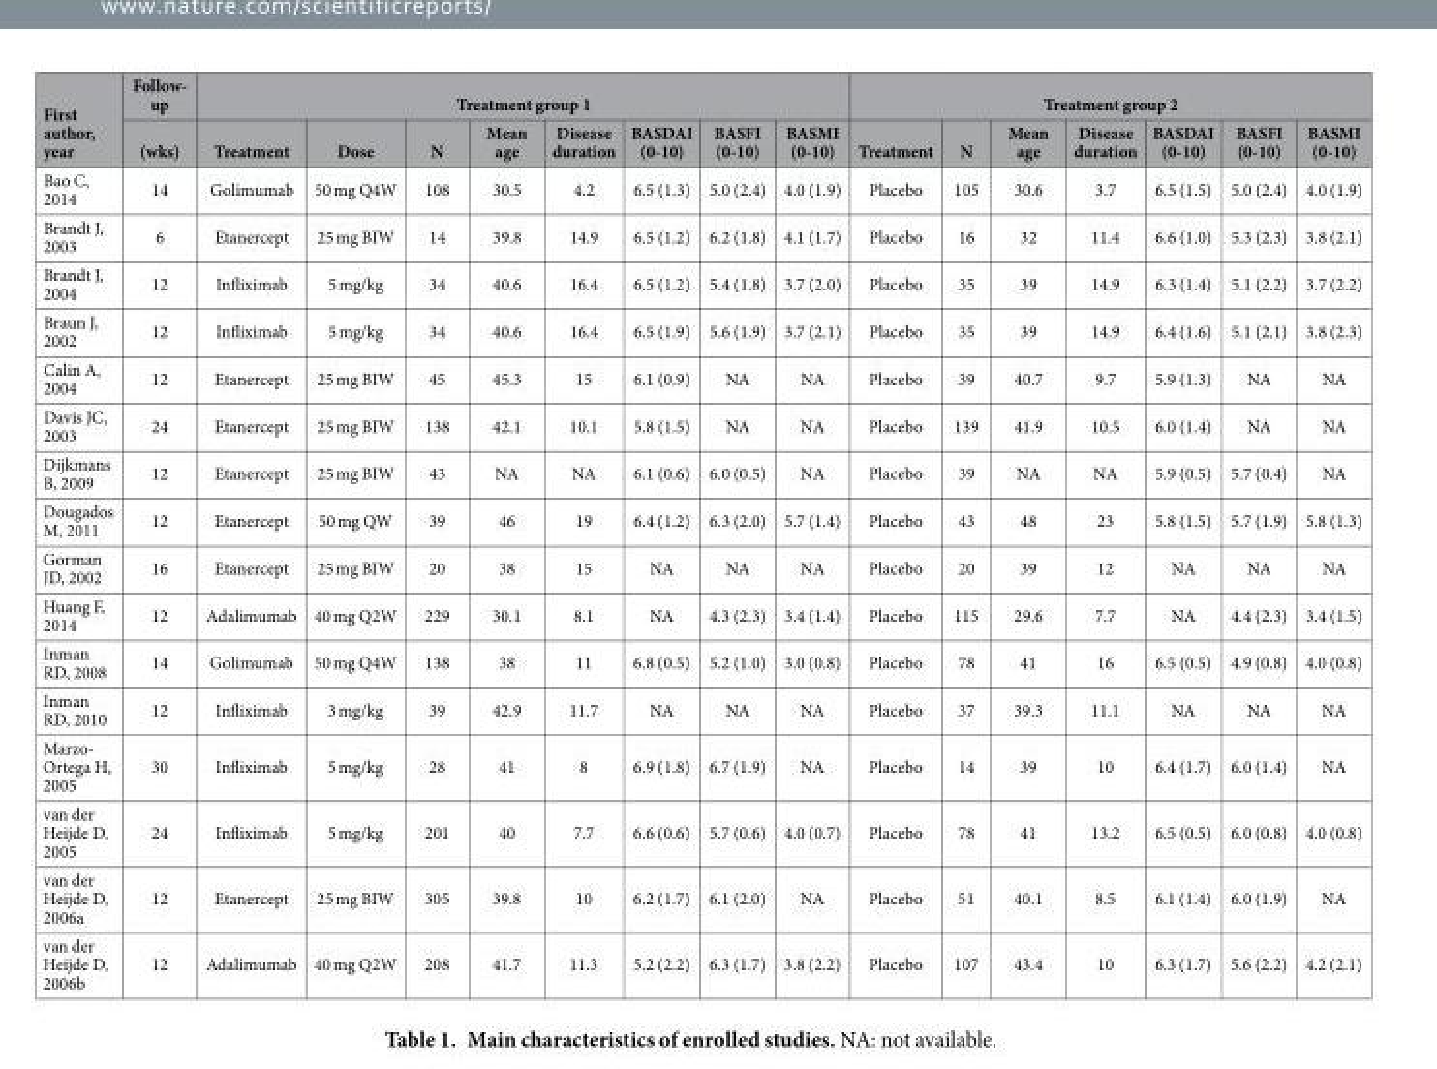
<table><thead><tr><td rowspan="2">First author, year</td><td rowspan="2">Follow- up (wks)</td><td colspan="8">Treatment group 1</td><td colspan="7">Treatment group 2</td></tr><tr><td>Treatment</td><td>Dose</td><td>N</td><td>Mean age</td><td>Disease duration</td><td>BASDAI (0-10)</td><td>BASFI (0-10)</td><td>BASMI (0-10)</td><td>Treatment</td><td>N</td><td>Mean age</td><td>Disease duration</td><td>BASDAI (0-10)</td><td>BASFI (0-10)</td><td>BASMI (0-10)</td></tr></thead><tbody><tr><td>Bao C, 2014</td><td>14</td><td>Golimumab</td><td>50 mg Q4W</td><td>108</td><td>30.5</td><td>4.2</td><td>6.5 (1.3)</td><td>5.0 (2.4)</td><td>4.0 (1.9)</td><td>Placebo</td><td>105</td><td>30.6</td><td>3.7</td><td>6.5 (1.5)</td><td>5.0 (2.4)</td><td>4.0 (1.9)</td></tr><tr><td>Brandt J, 2003</td><td>6</td><td>Etanercept</td><td>25 mg BIW</td><td>14</td><td>39.8</td><td>14.9</td><td>6.5 (1.2)</td><td>6.2 (1.8)</td><td>4.1 (1.7)</td><td>Placebo</td><td>16</td><td>32</td><td>11.4</td><td>6.6 (1.0)</td><td>5.3 (2.3)</td><td>3.8 (2.1)</td></tr><tr><td>Brandt J, 2004</td><td>12</td><td>Infliximab</td><td>5 mg/kg</td><td>34</td><td>40.6</td><td>16.4</td><td>6.5 (1.2)</td><td>5.4 (1.8)</td><td>3.7 (2.0)</td><td>Placebo</td><td>35</td><td>39</td><td>14.9</td><td>6.3 (1.4)</td><td>5.1 (2.2)</td><td>3.7 (2.2)</td></tr><tr><td>Braun J, 2002</td><td>12</td><td>Infliximab</td><td>5 mg/kg</td><td>34</td><td>40.6</td><td>16.4</td><td>6.5 (1.9)</td><td>5.6 (1.9)</td><td>3.7 (2.1)</td><td>Placebo</td><td>35</td><td>39</td><td>14.9</td><td>6.4 (1.6)</td><td>5.1 (2.1)</td><td>3.8 (2.3)</td></tr><tr><td>Calin A, 2004</td><td>12</td><td>Etanercept</td><td>25 mg BIW</td><td>45</td><td>45.3</td><td>15</td><td>6.1 (0.9)</td><td>NA</td><td>NA</td><td>Placebo</td><td>39</td><td>40.7</td><td>9.7</td><td>5.9 (1.3)</td><td>NA</td><td>NA</td></tr><tr><td>Davis JC, 2003</td><td>24</td><td>Etanercept</td><td>25 mg BIW</td><td>138</td><td>42.1</td><td>10.1</td><td>5.8 (1.5)</td><td>NA</td><td>NA</td><td>Placebo</td><td>139</td><td>41.9</td><td>10.5</td><td>6.0 (1.4)</td><td>NA</td><td>NA</td></tr><tr><td>Dijkmans B, 2009</td><td>12</td><td>Etanercept</td><td>25 mg BIW</td><td>43</td><td>NA</td><td>NA</td><td>6.1 (0.6)</td><td>6.0 (0.5)</td><td>NA</td><td>Placebo</td><td>39</td><td>NA</td><td>NA</td><td>5.9 (0.5)</td><td>5.7 (0.4)</td><td>NA</td></tr><tr><td>Dougados M, 2011</td><td>12</td><td>Etanercept</td><td>50 mg QW</td><td>39</td><td>46</td><td>19</td><td>6.4 (1.2)</td><td>6.3 (2.0)</td><td>5.7 (1.4)</td><td>Placebo</td><td>43</td><td>48</td><td>23</td><td>5.8 (1.5)</td><td>5.7 (1.9)</td><td>5.8 (1.3)</td></tr><tr><td>Gorman JD, 2002</td><td>16</td><td>Etanercept</td><td>25 mg BIW</td><td>20</td><td>38</td><td>15</td><td>NA</td><td>NA</td><td>NA</td><td>Placebo</td><td>20</td><td>39</td><td>12</td><td>NA</td><td>NA</td><td>NA</td></tr><tr><td>Huang F, 2014</td><td>12</td><td>Adalimumab</td><td>40 mg Q2W</td><td>229</td><td>30.1</td><td>8.1</td><td>NA</td><td>4.3 (2.3)</td><td>3.4 (1.4)</td><td>Placebo</td><td>115</td><td>29.6</td><td>7.7</td><td>NA</td><td>4.4 (2.3)</td><td>3.4 (1.5)</td></tr><tr><td>Inman RD, 2008</td><td>14</td><td>Golimumab</td><td>50 mg Q4W</td><td>138</td><td>38</td><td>11</td><td>6.8 (0.5)</td><td>5.2 (1.0)</td><td>3.0 (0.8)</td><td>Placebo</td><td>78</td><td>41</td><td>16</td><td>6.5 (0.5)</td><td>4.9 (0.8)</td><td>4.0 (0.8)</td></tr><tr><td>Inman RD, 2010</td><td>12</td><td>Infliximab</td><td>3 mg/kg</td><td>39</td><td>42.9</td><td>11.7</td><td>NA</td><td>NA</td><td>NA</td><td>Placebo</td><td>37</td><td>39.3</td><td>11.1</td><td>NA</td><td>NA</td><td>NA</td></tr><tr><td>Marzo- Ortega H, 2005</td><td>30</td><td>Infliximab</td><td>5 mg/kg</td><td>28</td><td>41</td><td>8</td><td>6.9 (1.8)</td><td>6.7 (1.9)</td><td>NA</td><td>Placebo</td><td>14</td><td>39</td><td>10</td><td>6.4 (1.7)</td><td>6.0 (1.4)</td><td>NA</td></tr><tr><td>van der Heijde D, 2005</td><td>24</td><td>Infliximab</td><td>5 mg/kg</td><td>201</td><td>40</td><td>7.7</td><td>6.6 (0.6)</td><td>5.7 (0.6)</td><td>4.0 (0.7)</td><td>Placebo</td><td>78</td><td>41</td><td>13.2</td><td>6.5 (0.5)</td><td>6.0 (0.8)</td><td>4.0 (0.8)</td></tr><tr><td>van der Heijde D, 2006a</td><td>12</td><td>Etanercept</td><td>25 mg BIW</td><td>305</td><td>39.8</td><td>10</td><td>6.2 (1.7)</td><td>6.1 (2.0)</td><td>NA</td><td>Placebo</td><td>51</td><td>40.1</td><td>8.5</td><td>6.1 (1.4)</td><td>6.0 (1.9)</td><td>NA</td></tr><tr><td>van der Heijde D, 2006b</td><td>12</td><td>Adalimumab</td><td>40 mg Q2W</td><td>208</td><td>41.7</td><td>11.3</td><td>5.2 (2.2)</td><td>6.3 (1.7)</td><td>3.8 (2.2)</td><td>Placebo</td><td>107</td><td>43.4</td><td>10</td><td>6.3 (1.7)</td><td>5.6 (2.2)</td><td>4.2 (2.1)</td></tr></tbody></table>